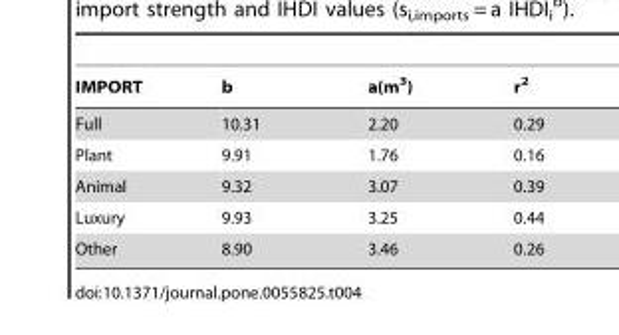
<table><thead><tr><td>IMPORT</td><td>b</td><td>a(m<sup>3</sup>)</td><td>r<sup>2</sup></td></tr></thead><tbody><tr><td>Full</td><td>10.31</td><td>2.20</td><td>0.29</td></tr><tr><td>Plant</td><td>9.91</td><td>1.76</td><td>0.16</td></tr><tr><td>Animal</td><td>9.32</td><td>3.07</td><td>0.39</td></tr><tr><td>Luxury</td><td>9.93</td><td>3.25</td><td>0.44</td></tr><tr><td>Other</td><td>8.90</td><td>3.46</td><td>0.26</td></tr></tbody></table>